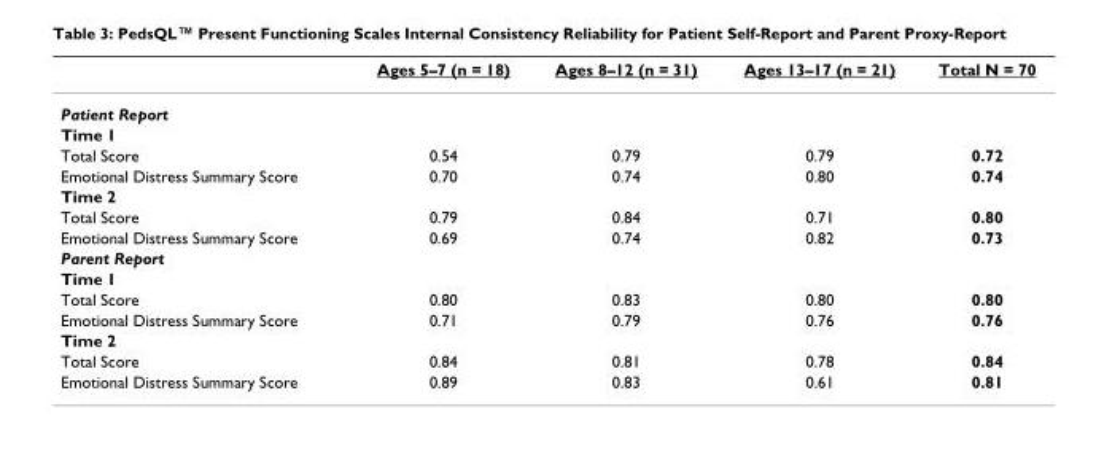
<table><thead><tr><td></td><td>Ages 5–7 (n = 18)</td><td>Ages 8–12 (n = 31)</td><td>Ages 13–17 (n = 21)</td><td>Total N = 70</td></tr></thead><tbody><tr><td colspan="5">Patient Report</td></tr><tr><td colspan="5">Time 1</td></tr><tr><td>Total Score</td><td>0.54</td><td>0.79</td><td>0.79</td><td>0.72</td></tr><tr><td>Emotional Distress Summary Score</td><td>0.70</td><td>0.74</td><td>0.80</td><td>0.74</td></tr><tr><td colspan="5">Time 2</td></tr><tr><td>Total Score</td><td>0.79</td><td>0.84</td><td>0.71</td><td>0.80</td></tr><tr><td>Emotional Distress Summary Score</td><td>0.69</td><td>0.74</td><td>0.82</td><td>0.73</td></tr><tr><td colspan="5">Parent Report</td></tr><tr><td colspan="5">Time 1</td></tr><tr><td>Total Score</td><td>0.80</td><td>0.83</td><td>0.80</td><td>0.80</td></tr><tr><td>Emotional Distress Summary Score</td><td>0.71</td><td>0.79</td><td>0.76</td><td>0.76</td></tr><tr><td colspan="5">Time 2</td></tr><tr><td>Total Score</td><td>0.84</td><td>0.81</td><td>0.78</td><td>0.84</td></tr><tr><td>Emotional Distress Summary Score</td><td>0.89</td><td>0.83</td><td>0.61</td><td>0.81</td></tr></tbody></table>